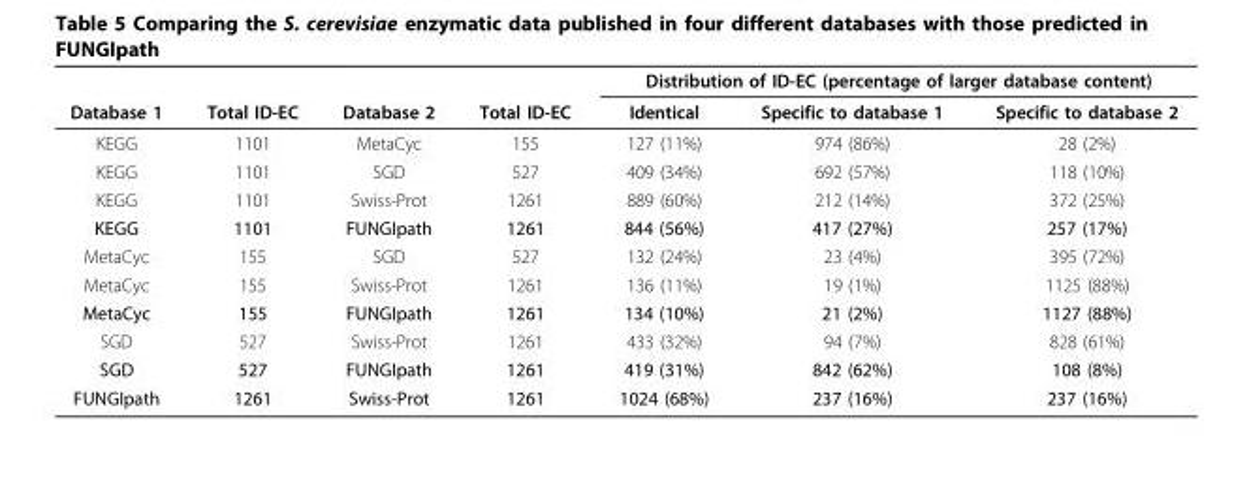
<table><thead><tr><td rowspan="2">Database 1</td><td rowspan="2">Total ID-EC</td><td rowspan="2">Database 2</td><td rowspan="2">Total ID-EC</td><td colspan="3">Distribution of ID-EC (percentage of larger database content)</td></tr><tr><td>Identical</td><td>Specific to database 1</td><td>Specific to database 2</td></tr></thead><tbody><tr><td>KEGG</td><td>1101</td><td>MetaCyc</td><td>155</td><td>127 (11%)</td><td>974 (86%)</td><td>28 (2%)</td></tr><tr><td>KEGG</td><td>1101</td><td>SGD</td><td>527</td><td>409 (34%)</td><td>692 (57%)</td><td>118 (10%)</td></tr><tr><td>KEGG</td><td>1101</td><td>Swiss-Prot</td><td>1261</td><td>889 (60%)</td><td>212 (14%)</td><td>372 (25%)</td></tr><tr><td>KEGG</td><td>1101</td><td>FUNGIpath</td><td>1261</td><td>844 (56%)</td><td>417 (27%)</td><td>257 (17%)</td></tr><tr><td>MetaCyc</td><td>155</td><td>SGD</td><td>527</td><td>132 (24%)</td><td>23 (4%)</td><td>395 (72%)</td></tr><tr><td>MetaCyc</td><td>155</td><td>Swiss-Prot</td><td>1261</td><td>136 (11%)</td><td>19 (1%)</td><td>1125 (88%)</td></tr><tr><td>MetaCyc</td><td>155</td><td>FUNGIpath</td><td>1261</td><td>134 (10%)</td><td>21 (2%)</td><td>1127 (88%)</td></tr><tr><td>SGD</td><td>527</td><td>Swiss-Prot</td><td>1261</td><td>433 (32%)</td><td>94 (7%)</td><td>828 (61%)</td></tr><tr><td>SGD</td><td>527</td><td>FUNGIpath</td><td>1261</td><td>419 (31%)</td><td>842 (62%)</td><td>108 (8%)</td></tr><tr><td>FUNGIpath</td><td>1261</td><td>Swiss-Prot</td><td>1261</td><td>1024 (68%)</td><td>237 (16%)</td><td>237 (16%)</td></tr></tbody></table>